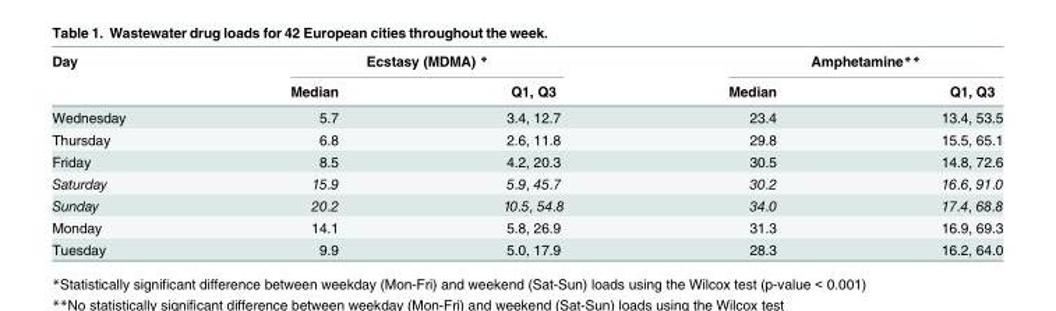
<table><thead><tr><td rowspan="2">Day</td><td colspan="2">Ecstasy (MDMA) *</td><td colspan="2">Amphetamine**</td></tr><tr><td>Median</td><td>Q1, Q3</td><td>Median</td><td>Q1, Q3</td></tr></thead><tbody><tr><td>Wednesday</td><td>5.7</td><td>3.4, 12.7</td><td>23.4</td><td>13.4, 53.5</td></tr><tr><td>Thursday</td><td>6.8</td><td>2.6, 11.8</td><td>29.8</td><td>15.5, 65.1</td></tr><tr><td>Friday</td><td>8.5</td><td>4.2, 20.3</td><td>30.5</td><td>14.8, 72.6</td></tr><tr><td>Saturday</td><td>15.9</td><td>5.9, 45.7</td><td>30.2</td><td>16.6, 91.0</td></tr><tr><td>Sunday</td><td>20.2</td><td>10.5, 54.8</td><td>34.0</td><td>17.4, 68.8</td></tr><tr><td>Monday</td><td>14.1</td><td>5.8, 26.9</td><td>31.3</td><td>16.9, 69.3</td></tr><tr><td>Tuesday</td><td>9.9</td><td>5.0, 17.9</td><td>28.3</td><td>16.2, 64.0</td></tr></tbody></table>